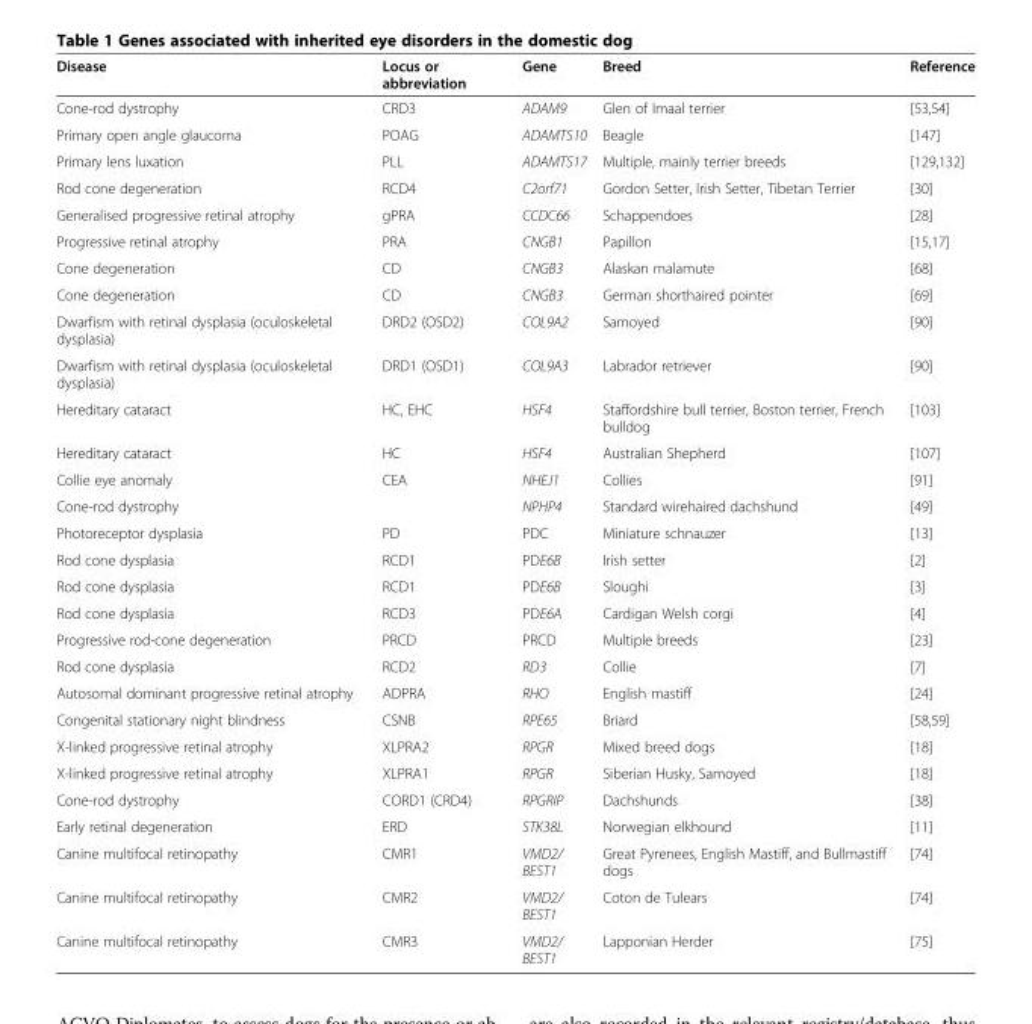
<table><thead><tr><td>Disease</td><td>Locus or abbreviation</td><td>Gene</td><td>Breed</td><td>Reference</td></tr></thead><tbody><tr><td>Cone-rod dystrophy</td><td>CRD3</td><td>ADAM9</td><td>Glen of Imaal terrier</td><td>[53,54]</td></tr><tr><td>Primary open angle glaucoma</td><td>POAG</td><td>ADAMTS10</td><td>Beagle</td><td>[147]</td></tr><tr><td>Primary lens luxation</td><td>PLL</td><td>ADAMTS17</td><td>Multiple, mainly terrier breeds</td><td>[129,132]</td></tr><tr><td>Rod cone degeneration</td><td>RCD4</td><td>C2orf71</td><td>Gordon Setter, Irish Setter, Tibetan Terrier</td><td>[30]</td></tr><tr><td>Generalised progressive retinal atrophy</td><td>gPRA</td><td>CCDC66</td><td>Schappendoes</td><td>[28]</td></tr><tr><td>Progressive retinal atrophy</td><td>PRA</td><td>CNGB1</td><td>Papillon</td><td>[15,17]</td></tr><tr><td>Cone degeneration</td><td>CD</td><td>CNGB3</td><td>Alaskan malamute</td><td>[68]</td></tr><tr><td>Cone degeneration</td><td>CD</td><td>CNGB3</td><td>German shorthaired pointer</td><td>[69]</td></tr><tr><td>Dwarfism with retinal dysplasia (oculoskeletal dysplasia)</td><td>DRD2 (OSD2)</td><td>COL9A2</td><td>Samoyed</td><td>[90]</td></tr><tr><td>Dwarfism with retinal dysplasia (oculoskeletal dysplasia)</td><td>DRD1 (OSD1)</td><td>COL9A3</td><td>Labrador retriever</td><td>[90]</td></tr><tr><td>Hereditary cataract</td><td>HC, EHC</td><td>HSF4</td><td>Staffordshire bull terrier, Boston terrier, French bulldog</td><td>[103]</td></tr><tr><td>Hereditary cataract</td><td>HC</td><td>HSF4</td><td>Australian Shepherd</td><td>[107]</td></tr><tr><td>Collie eye anomaly</td><td>CEA</td><td>NHEJ1</td><td>Collies</td><td>[91]</td></tr><tr><td>Cone-rod dystrophy</td><td></td><td>NPHP4</td><td>Standard wirehaired dachshund</td><td>[49]</td></tr><tr><td>Photoreceptor dysplasia</td><td>PD</td><td>PDC</td><td>Miniature schnauzer</td><td>[13]</td></tr><tr><td>Rod cone dysplasia</td><td>RCD1</td><td>PDE6B</td><td>Irish setter</td><td>[2]</td></tr><tr><td>Rod cone dysplasia</td><td>RCD1</td><td>PDE6B</td><td>Sloughi</td><td>[3]</td></tr><tr><td>Rod cone dysplasia</td><td>RCD3</td><td>PDE6A</td><td>Cardigan Welsh corgi</td><td>[4]</td></tr><tr><td>Progressive rod-cone degeneration</td><td>PRCD</td><td>PRCD</td><td>Multiple breeds</td><td>[23]</td></tr><tr><td>Rod cone dysplasia</td><td>RCD2</td><td>RD3</td><td>Collie</td><td>[7]</td></tr><tr><td>Autosomal dominant progressive retinal atrophy</td><td>ADPRA</td><td>RHO</td><td>English mastiff</td><td>[24]</td></tr><tr><td>Congenital stationary night blindness</td><td>CSNB</td><td>RPE65</td><td>Briard</td><td>[58,59]</td></tr><tr><td>X-linked progressive retinal atrophy</td><td>XLPRA2</td><td>RPGR</td><td>Mixed breed dogs</td><td>[18]</td></tr><tr><td>X-linked progressive retinal atrophy</td><td>XLPRA1</td><td>RPGR</td><td>Siberian Husky, Samoyed</td><td>[18]</td></tr><tr><td>Cone-rod dystrophy</td><td>CORD1 (CRD4)</td><td>RPGRIP</td><td>Dachshunds</td><td>[38]</td></tr><tr><td>Early retinal degeneration</td><td>ERD</td><td>STK38L</td><td>Norwegian elkhound</td><td>[11]</td></tr><tr><td>Canine multifocal retinopathy</td><td>CMR1</td><td>VMD2/ BEST1</td><td>Great Pyrenees, English Mastiff, and Bullmastiff dogs</td><td>[74]</td></tr><tr><td>Canine multifocal retinopathy</td><td>CMR2</td><td>VMD2/ BEST1</td><td>Coton de Tulears</td><td>[74]</td></tr><tr><td>Canine multifocal retinopathy</td><td>CMR3</td><td>VMD2/ BEST1</td><td>Lapponian Herder</td><td>[75]</td></tr></tbody></table>